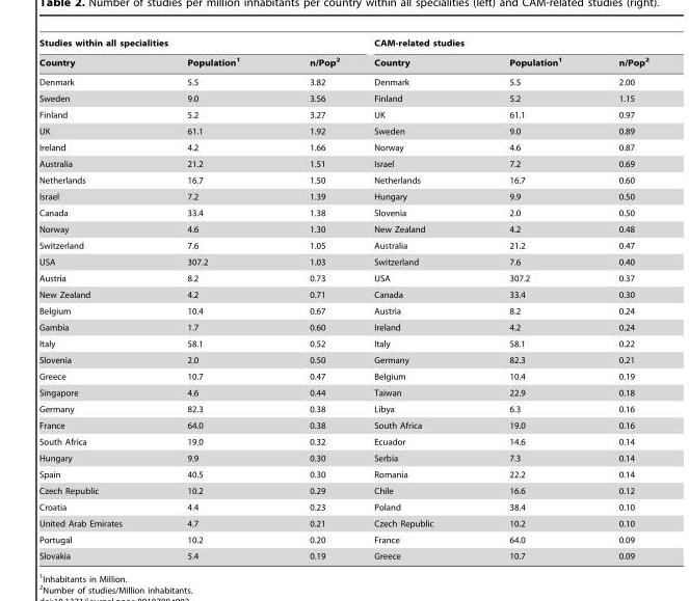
<table><thead><tr><td colspan="3">Studies within all specialities</td><td colspan="3">CAM-related studies</td></tr><tr><td>Country</td><td>Population<sup>1</sup></td><td>n/Pop<sup>2</sup></td><td>Country</td><td>Population<sup>1</sup></td><td>n/Pop<sup>2</sup></td></tr></thead><tbody><tr><td>Denmark</td><td>5.5</td><td>3.82</td><td>Denmark</td><td>5.5</td><td>2.00</td></tr><tr><td>Sweden</td><td>9.0</td><td>3.56</td><td>Finland</td><td>5.2</td><td>1.15</td></tr><tr><td>Finland</td><td>5.2</td><td>3.27</td><td>UK</td><td>61.1</td><td>0.97</td></tr><tr><td>UK</td><td>61.1</td><td>1.92</td><td>Sweden</td><td>9.0</td><td>0.89</td></tr><tr><td>Ireland</td><td>4.2</td><td>1.66</td><td>Norway</td><td>4.6</td><td>0.87</td></tr><tr><td>Australia</td><td>21.2</td><td>1.51</td><td>Israel</td><td>7.2</td><td>0.69</td></tr><tr><td>Netherlands</td><td>16.7</td><td>1.50</td><td>Netherlands</td><td>16.7</td><td>0.60</td></tr><tr><td>Israel</td><td>7.2</td><td>1.39</td><td>Hungary</td><td>9.9</td><td>0.50</td></tr><tr><td>Canada</td><td>33.4</td><td>1.38</td><td>Slovenia</td><td>2.0</td><td>0.50</td></tr><tr><td>Norway</td><td>4.6</td><td>1.30</td><td>New Zealand</td><td>4.2</td><td>0.48</td></tr><tr><td>Switzerland</td><td>7.6</td><td>1.05</td><td>Australia</td><td>21.2</td><td>0.47</td></tr><tr><td>USA</td><td>307.2</td><td>1.03</td><td>Switzerland</td><td>7.6</td><td>0.40</td></tr><tr><td>Austria</td><td>8.2</td><td>0.73</td><td>USA</td><td>307.2</td><td>0.37</td></tr><tr><td>New Zealand</td><td>4.2</td><td>0.71</td><td>Canada</td><td>33.4</td><td>0.30</td></tr><tr><td>Belgium</td><td>10.4</td><td>0.67</td><td>Austria</td><td>8.2</td><td>0.24</td></tr><tr><td>Gambia</td><td>1.7</td><td>0.60</td><td>Ireland</td><td>4.2</td><td>0.24</td></tr><tr><td>Italy</td><td>58.1</td><td>0.52</td><td>Italy</td><td>58.1</td><td>0.22</td></tr><tr><td>Slovenia</td><td>2.0</td><td>0.50</td><td>Germany</td><td>82.3</td><td>0.21</td></tr><tr><td>Greece</td><td>10.7</td><td>0.47</td><td>Belgium</td><td>10.4</td><td>0.19</td></tr><tr><td>Singapore</td><td>4.6</td><td>0.44</td><td>Taiwan</td><td>22.9</td><td>0.18</td></tr><tr><td>Germany</td><td>82.3</td><td>0.38</td><td>Libya</td><td>6.3</td><td>0.16</td></tr><tr><td>France</td><td>64.0</td><td>0.38</td><td>South Africa</td><td>19.0</td><td>0.16</td></tr><tr><td>South Africa</td><td>19.0</td><td>0.32</td><td>Ecuador</td><td>14.6</td><td>0.14</td></tr><tr><td>Hungary</td><td>9.9</td><td>0.30</td><td>Serbia</td><td>7.3</td><td>0.14</td></tr><tr><td>Spain</td><td>40.5</td><td>0.30</td><td>Romania</td><td>22.2</td><td>0.14</td></tr><tr><td>Czech Republic</td><td>10.2</td><td>0.29</td><td>Chile</td><td>16.6</td><td>0.12</td></tr><tr><td>Croatia</td><td>4.4</td><td>0.23</td><td>Poland</td><td>38.4</td><td>0.10</td></tr><tr><td>United Arab Emirates</td><td>4.7</td><td>0.21</td><td>Czech Republic</td><td>10.2</td><td>0.10</td></tr><tr><td>Portugal</td><td>10.2</td><td>0.20</td><td>France</td><td>64.0</td><td>0.09</td></tr><tr><td>Slovakia</td><td>5.4</td><td>0.19</td><td>Greece</td><td>10.7</td><td>0.09</td></tr></tbody></table>